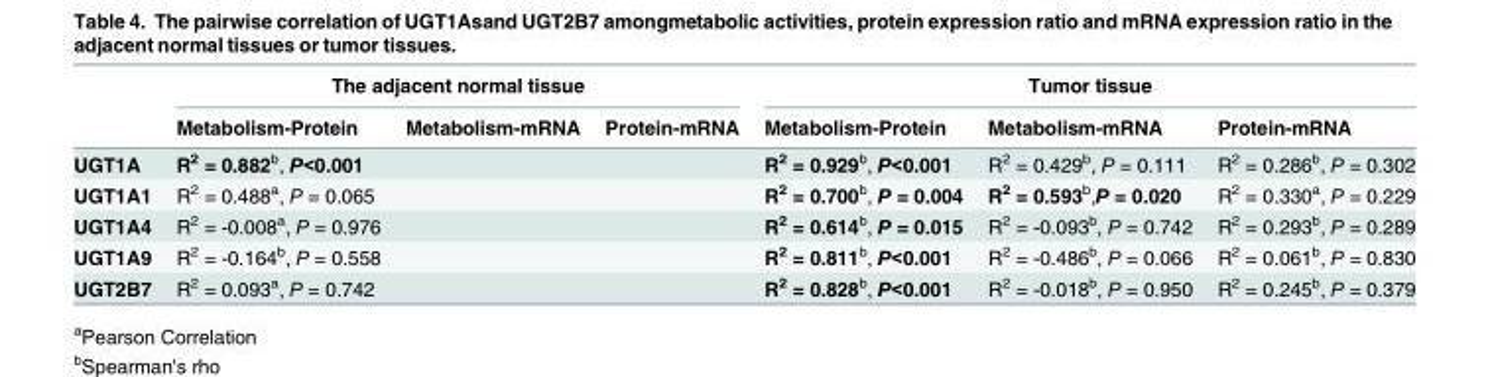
<table><thead><tr><td rowspan="2"></td><td colspan="3">The adjacent normal tissue</td><td colspan="3">Tumor tissue</td></tr><tr><td>Metabolism-Protein</td><td>Metabolism-mRNA</td><td>Protein-mRNA</td><td>Metabolism-Protein</td><td>Metabolism-mRNA</td><td>Protein-mRNA</td></tr></thead><tbody><tr><td>UGT1A</td><td>R<sup>2</sup> = 0.882<sup>b</sup>, P&lt;0.001</td><td></td><td></td><td>R<sup>2</sup> = 0.929<sup>b</sup>, P&lt;0.001</td><td>R<sup>2</sup> = 0.429<sup>b</sup>, P = 0.111</td><td>R<sup>2</sup> = 0.286<sup>b</sup>, P = 0.302</td></tr><tr><td>UGT1A1</td><td>R<sup>2</sup> = 0.488<sup>a</sup>, P = 0.065</td><td></td><td></td><td>R<sup>2</sup> = 0.700<sup>b</sup>, P = 0.004</td><td>R<sup>2</sup> = 0.593<sup>b</sup>,P = 0.020</td><td>R<sup>2</sup> = 0.330<sup>a</sup>, P = 0.229</td></tr><tr><td>UGT1A4</td><td>R<sup>2</sup> = -0.008<sup>a</sup>, P = 0.976</td><td></td><td></td><td>R<sup>2</sup> = 0.614<sup>b</sup>, P = 0.015</td><td>R<sup>2</sup> = -0.093<sup>b</sup>, P = 0.742</td><td>R<sup>2</sup> = 0.293<sup>b</sup>, P = 0.289</td></tr><tr><td>UGT1A9</td><td>R<sup>2</sup> = -0.164<sup>b</sup>, P = 0.558</td><td></td><td></td><td>R<sup>2</sup> = 0.811<sup>b</sup>, P&lt;0.001</td><td>R<sup>2</sup> = -0.486<sup>b</sup>, P = 0.066</td><td>R<sup>2</sup> = 0.061<sup>b</sup>, P = 0.830</td></tr><tr><td>UGT2B7</td><td>R<sup>2</sup> = 0.093<sup>a</sup>, P = 0.742</td><td></td><td></td><td>R<sup>2</sup> = 0.828<sup>b</sup>, P&lt;0.001</td><td>R<sup>2</sup> = -0.018<sup>b</sup>, P = 0.950</td><td>R<sup>2</sup> = 0.245<sup>b</sup>, P = 0.379</td></tr></tbody></table>